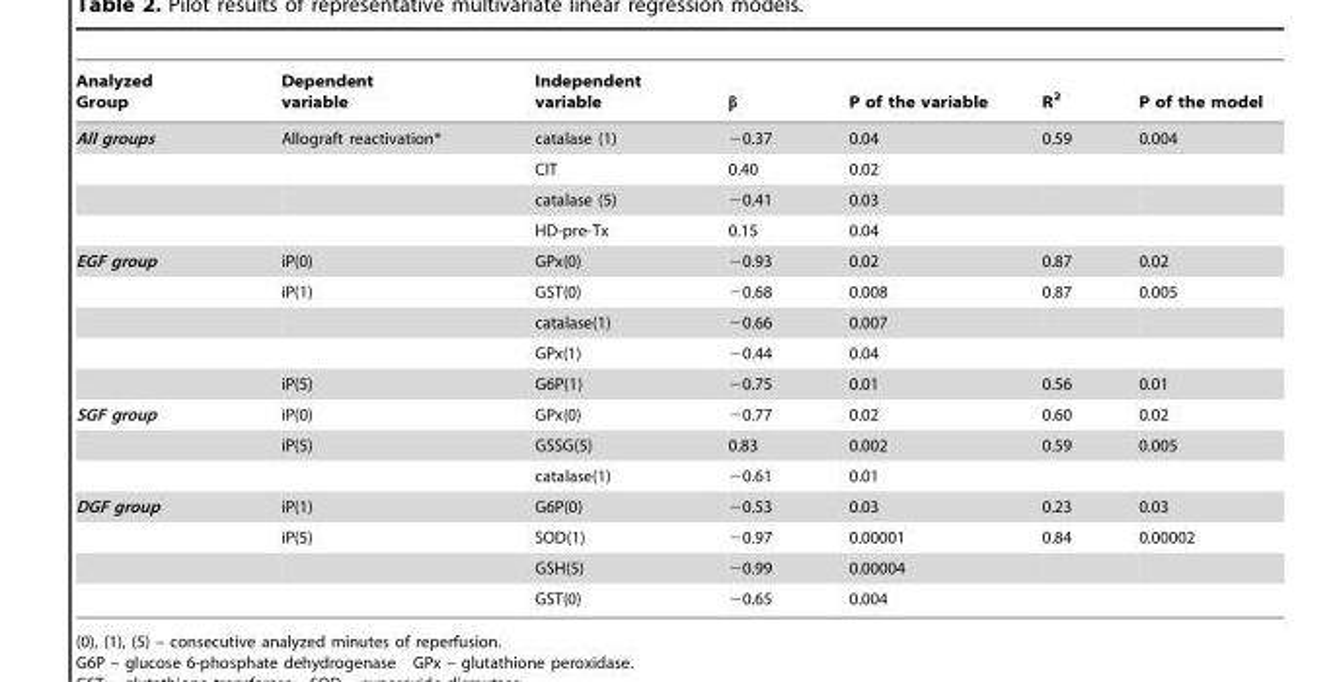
<table><thead><tr><td>Analyzed Group</td><td>Dependent variable</td><td>Independent variable</td><td>β</td><td>P of the variable</td><td>R<sup>2</sup></td><td>P of the model</td></tr></thead><tbody><tr><td rowspan="4">All groups</td><td>Allograft reactivation*</td><td>catalase (1)</td><td>−0.37</td><td>0.04</td><td>0.59</td><td>0.004</td></tr><tr><td></td><td>CIT</td><td>0.40</td><td>0.02</td><td></td><td></td></tr><tr><td></td><td>catalase (5)</td><td>−0.41</td><td>0.03</td><td></td><td></td></tr><tr><td></td><td>HD-pre-Tx</td><td>0.15</td><td>0.04</td><td></td><td></td></tr><tr><td rowspan="5">EGF group</td><td>iP(0)</td><td>GPx(0)</td><td>−0.93</td><td>0.02</td><td>0.87</td><td>0.02</td></tr><tr><td>iP(1)</td><td>GST(0)</td><td>−0.68</td><td>0.008</td><td>0.87</td><td>0.005</td></tr><tr><td></td><td>catalase(1)</td><td>−0.66</td><td>0.007</td><td></td><td></td></tr><tr><td></td><td>GPx(1)</td><td>−0.44</td><td>0.04</td><td></td><td></td></tr><tr><td>iP(5)</td><td>G6P(1)</td><td>−0.75</td><td>0.01</td><td>0.56</td><td>0.01</td></tr><tr><td rowspan="3">SGF group</td><td>iP(0)</td><td>GPx(0)</td><td>−0.77</td><td>0.02</td><td>0.60</td><td>0.02</td></tr><tr><td>iP(5)</td><td>GSSG(5)</td><td>0.83</td><td>0.002</td><td>0.59</td><td>0.005</td></tr><tr><td></td><td>catalase(1)</td><td>−0.61</td><td>0.01</td><td></td><td></td></tr><tr><td rowspan="4">DGF group</td><td>iP(1)</td><td>G6P(0)</td><td>−0.53</td><td>0.03</td><td>0.23</td><td>0.03</td></tr><tr><td>iP(5)</td><td>SOD(1)</td><td>−0.97</td><td>0.00001</td><td>0.84</td><td>0.00002</td></tr><tr><td></td><td>GSH(5)</td><td>−0.99</td><td>0.00004</td><td></td><td></td></tr><tr><td></td><td>GST(0)</td><td>−0.65</td><td>0.004</td><td></td><td></td></tr></tbody></table>